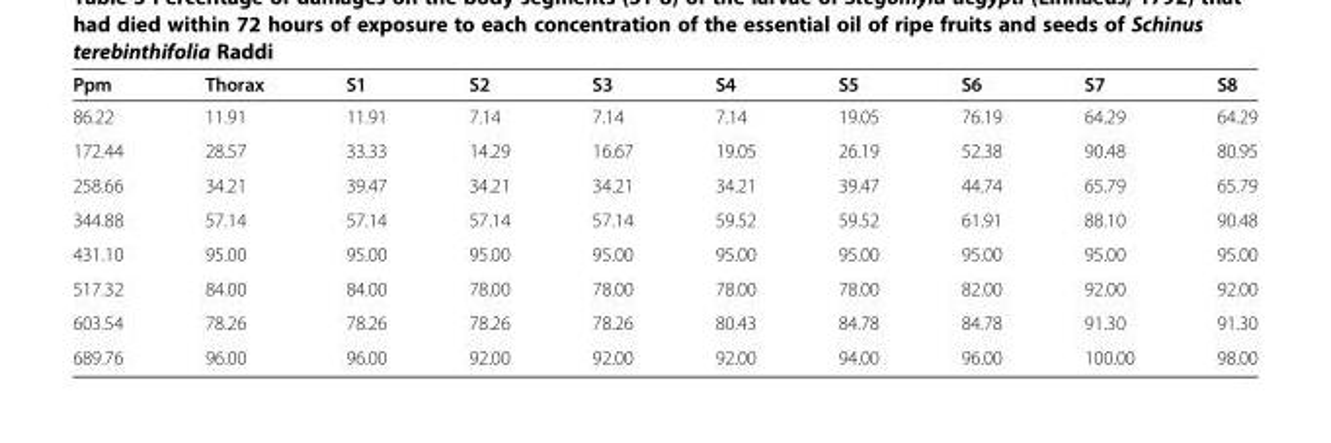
<table><thead><tr><td>Ppm</td><td>Thorax</td><td>S1</td><td>S2</td><td>S3</td><td>S4</td><td>S5</td><td>S6</td><td>S7</td><td>S8</td></tr></thead><tbody><tr><td>86.22</td><td>11.91</td><td>11.91</td><td>7.14</td><td>7.14</td><td>7.14</td><td>19.05</td><td>76.19</td><td>64.29</td><td>64.29</td></tr><tr><td>172.44</td><td>28.57</td><td>33.33</td><td>14.29</td><td>16.67</td><td>19.05</td><td>26.19</td><td>52.38</td><td>90.48</td><td>80.95</td></tr><tr><td>258.66</td><td>34.21</td><td>39.47</td><td>34.21</td><td>34.21</td><td>34.21</td><td>39.47</td><td>44.74</td><td>65.79</td><td>65.79</td></tr><tr><td>344.88</td><td>57.14</td><td>57.14</td><td>57.14</td><td>57.14</td><td>59.52</td><td>59.52</td><td>61.91</td><td>88.10</td><td>90.48</td></tr><tr><td>431.10</td><td>95.00</td><td>95.00</td><td>95.00</td><td>95.00</td><td>95.00</td><td>95.00</td><td>95.00</td><td>95.00</td><td>95.00</td></tr><tr><td>517.32</td><td>84.00</td><td>84.00</td><td>78.00</td><td>78.00</td><td>78.00</td><td>78.00</td><td>82.00</td><td>92.00</td><td>92.00</td></tr><tr><td>603.54</td><td>78.26</td><td>78.26</td><td>78.26</td><td>78.26</td><td>80.43</td><td>84.78</td><td>84.78</td><td>91.30</td><td>91.30</td></tr><tr><td>689.76</td><td>96.00</td><td>96.00</td><td>92.00</td><td>92.00</td><td>92.00</td><td>94.00</td><td>96.00</td><td>100.00</td><td>98.00</td></tr></tbody></table>